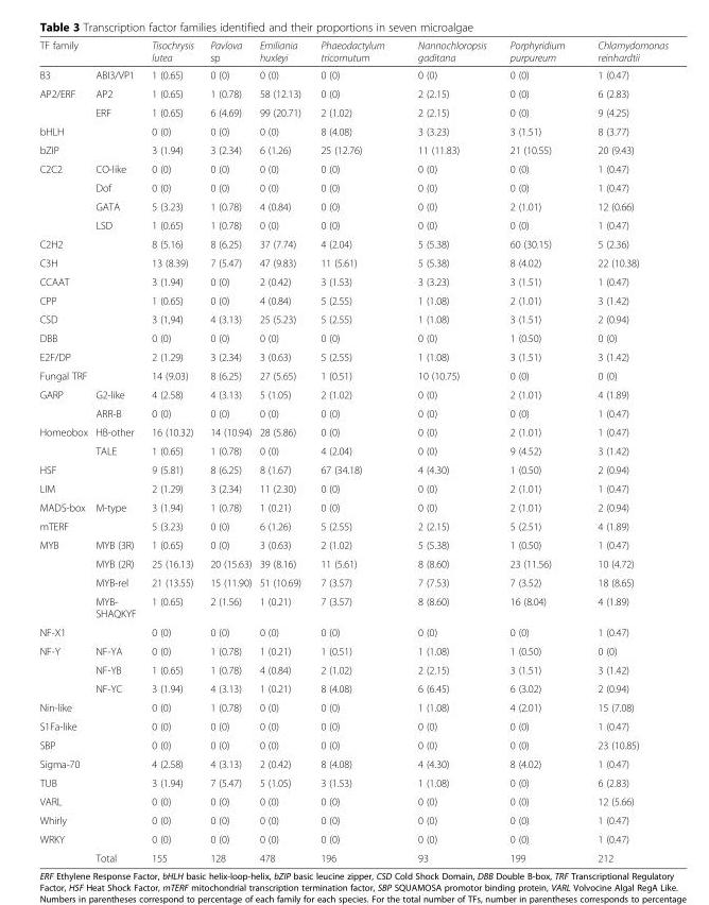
<table><thead><tr><td colspan="2">TF family</td><td rowspan="2">Tisochrysis lutea 1 (0.65)</td><td rowspan="2">Pavlova sp 0 (0)</td><td rowspan="2">Emiliania huxleyi 0 (0)</td><td rowspan="2">Phaeodactylum tricornutum 0 (0)</td><td rowspan="2">Nannochloropsis gaditana 0 (0)</td><td rowspan="2">Porphyridium purpureum 0 (0)</td><td rowspan="2">Chlamydomonas reinhardtii 1 (0.47)</td></tr><tr><td>B3</td><td>ABI3/VP1</td></tr></thead><tbody><tr><td rowspan="2">AP2/ERF</td><td>AP2</td><td>1 (0.65)</td><td>1 (0.78)</td><td>58 (12.13)</td><td>0 (0)</td><td>2 (2.15)</td><td>0 (0)</td><td>6 (2.83)</td></tr><tr><td>ERF</td><td>1 (0.65)</td><td>6 (4.69)</td><td>99 (20.71)</td><td>2 (1.02)</td><td>2 (2.15)</td><td>0 (0)</td><td>9 (4.25)</td></tr><tr><td colspan="2">bHLH</td><td>0 (0)</td><td>0 (0)</td><td>0 (0)</td><td>8 (4.08)</td><td>3 (3.23)</td><td>3 (1.51)</td><td>8 (3.77)</td></tr><tr><td colspan="2">bZIP</td><td>3 (1.94)</td><td>3 (2.34)</td><td>6 (1.26)</td><td>25 (12.76)</td><td>11 (11.83)</td><td>21 (10.55)</td><td>20 (9.43)</td></tr><tr><td rowspan="4">C2C2</td><td>CO-like</td><td>0 (0)</td><td>0 (0)</td><td>0 (0)</td><td>0 (0)</td><td>0 (0)</td><td>0 (0)</td><td>1 (0.47)</td></tr><tr><td>Dof</td><td>0 (0)</td><td>0 (0)</td><td>0 (0)</td><td>0 (0)</td><td>0 (0)</td><td>0 (0)</td><td>1 (0.47)</td></tr><tr><td>GATA</td><td>5 (3.23)</td><td>1 (0.78)</td><td>4 (0.84)</td><td>0 (0)</td><td>0 (0)</td><td>2 (1.01)</td><td>12 (0.66)</td></tr><tr><td>LSD</td><td>1 (0.65)</td><td>1 (0.78)</td><td>0 (0)</td><td>0 (0)</td><td>0 (0)</td><td>0 (0)</td><td>1 (0.47)</td></tr><tr><td colspan="2">C2H2</td><td>8 (5.16)</td><td>8 (6.25)</td><td>37 (7.74)</td><td>4 (2.04)</td><td>5 (5.38)</td><td>60 (30.15)</td><td>5 (2.36)</td></tr><tr><td colspan="2">C3H</td><td>13 (8.39)</td><td>7 (5.47)</td><td>47 (9.83)</td><td>11 (5.61)</td><td>5 (5.38)</td><td>8 (4.02)</td><td>22 (10.38)</td></tr><tr><td colspan="2">CCAAT</td><td>3 (1.94)</td><td>0 (0)</td><td>2 (0.42)</td><td>3 (1.53)</td><td>3 (3.23)</td><td>3 (1.51)</td><td>1 (0.47)</td></tr><tr><td colspan="2">CPP</td><td>1 (0.65)</td><td>0 (0)</td><td>4 (0.84)</td><td>5 (2.55)</td><td>1 (1.08)</td><td>2 (1.01)</td><td>3 (1.42)</td></tr><tr><td colspan="2">CSD</td><td>3 (1,94)</td><td>4 (3.13)</td><td>25 (5.23)</td><td>5 (2.55)</td><td>1 (1.08)</td><td>3 (1.51)</td><td>2 (0.94)</td></tr><tr><td colspan="2">DBB</td><td>0 (0)</td><td>0 (0)</td><td>0 (0)</td><td>0 (0)</td><td>0 (0)</td><td>1 (0.50)</td><td>0 (0)</td></tr><tr><td colspan="2">E2F/DP</td><td>2 (1.29)</td><td>3 (2.34)</td><td>3 (0.63)</td><td>5 (2.55)</td><td>1 (1.08)</td><td>3 (1.51)</td><td>3 (1.42)</td></tr><tr><td colspan="2">Fungal TRF</td><td>14 (9.03)</td><td>8 (6.25)</td><td>27 (5.65)</td><td>1 (0.51)</td><td>10 (10.75)</td><td>0 (0)</td><td>0 (0)</td></tr><tr><td rowspan="2">GARP</td><td>G2-like</td><td>4 (2.58)</td><td>4 (3.13)</td><td>5 (1.05)</td><td>2 (1.02)</td><td>0 (0)</td><td>2 (1.01)</td><td>4 (1.89)</td></tr><tr><td>ARR-B</td><td>0 (0)</td><td>0 (0)</td><td>0 (0)</td><td>0 (0)</td><td>0 (0)</td><td>0 (0)</td><td>1 (0.47)</td></tr><tr><td rowspan="2">Homeobox</td><td>HB-other</td><td>16 (10.32)</td><td>14 (10.94)</td><td>28 (5.86)</td><td>0 (0)</td><td>0 (0)</td><td>2 (1.01)</td><td>1 (0.47)</td></tr><tr><td>TALE</td><td>1 (0.65)</td><td>1 (0.78)</td><td>0 (0)</td><td>4 (2.04)</td><td>0 (0)</td><td>9 (4.52)</td><td>3 (1.42)</td></tr><tr><td colspan="2">HSF</td><td>9 (5.81)</td><td>8 (6.25)</td><td>8 (1.67)</td><td>67 (34.18)</td><td>4 (4.30)</td><td>1 (0.50)</td><td>2 (0.94)</td></tr><tr><td colspan="2">LIM</td><td>2 (1.29)</td><td>3 (2.34)</td><td>11 (2.30)</td><td>0 (0)</td><td>0 (0)</td><td>2 (1.01)</td><td>1 (0.47)</td></tr><tr><td>MADS-box</td><td>M-type</td><td>3 (1.94)</td><td>1 (0.78)</td><td>1 (0.21)</td><td>0 (0)</td><td>0 (0)</td><td>2 (1.01)</td><td>2 (0.94)</td></tr><tr><td colspan="2">mTERF</td><td>5 (3.23)</td><td>0 (0)</td><td>6 (1.26)</td><td>5 (2.55)</td><td>2 (2.15)</td><td>5 (2.51)</td><td>4 (1.89)</td></tr><tr><td rowspan="4">MYB</td><td>MYB (3R)</td><td>1 (0.65)</td><td>0 (0)</td><td>3 (0.63)</td><td>2 (1.02)</td><td>5 (5.38)</td><td>1 (0.50)</td><td>1 (0.47)</td></tr><tr><td>MYB (2R)</td><td>25 (16.13)</td><td>20 (15.63)</td><td>39 (8.16)</td><td>11 (5.61)</td><td>8 (8.60)</td><td>23 (11.56)</td><td>10 (4.72)</td></tr><tr><td>MYB-rel</td><td>21 (13.55)</td><td>15 (11.90)</td><td>51 (10.69)</td><td>7 (3.57)</td><td>7 (7.53)</td><td>7 (3.52)</td><td>18 (8.65)</td></tr><tr><td>MYB- SHAQKYF</td><td>1 (0.65)</td><td>2 (1.56)</td><td>1 (0.21)</td><td>7 (3.57)</td><td>8 (8.60)</td><td>16 (8.04)</td><td>4 (1.89)</td></tr><tr><td colspan="2">NF-X1</td><td>0 (0)</td><td>0 (0)</td><td>0 (0)</td><td>0 (0)</td><td>0 (0)</td><td>0 (0)</td><td>1 (0.47)</td></tr><tr><td rowspan="3">NF-Y</td><td>NF-YA</td><td>0 (0)</td><td>1 (0.78)</td><td>1 (0.21)</td><td>1 (0.51)</td><td>1 (1.08)</td><td>1 (0.50)</td><td>0 (0)</td></tr><tr><td>NF-YB</td><td>1 (0.65)</td><td>1 (0.78)</td><td>4 (0.84)</td><td>2 (1.02)</td><td>2 (2.15)</td><td>3 (1.51)</td><td>3 (1.42)</td></tr><tr><td>NF-YC</td><td>3 (1.94)</td><td>4 (3.13)</td><td>1 (0.21)</td><td>8 (4.08)</td><td>6 (6.45)</td><td>6 (3.02)</td><td>2 (0.94)</td></tr><tr><td colspan="2">Nin-like</td><td>0 (0)</td><td>1 (0.78)</td><td>0 (0)</td><td>0 (0)</td><td>1 (1.08)</td><td>4 (2.01)</td><td>15 (7.08)</td></tr><tr><td colspan="2">S1Fa-like</td><td>0 (0)</td><td>0 (0)</td><td>0 (0)</td><td>0 (0)</td><td>0 (0)</td><td>0 (0)</td><td>1 (0.47)</td></tr><tr><td colspan="2">SBP</td><td>0 (0)</td><td>0 (0)</td><td>0 (0)</td><td>0 (0)</td><td>0 (0)</td><td>0 (0)</td><td>23 (10.85)</td></tr><tr><td colspan="2">Sigma-70</td><td>4 (2.58)</td><td>4 (3.13)</td><td>2 (0.42)</td><td>8 (4.08)</td><td>4 (4.30)</td><td>8 (4.02)</td><td>1 (0.47)</td></tr><tr><td colspan="2">TUB</td><td>3 (1.94)</td><td>7 (5.47)</td><td>5 (1.05)</td><td>3 (1.53)</td><td>1 (1.08)</td><td>0 (0)</td><td>6 (2.83)</td></tr><tr><td colspan="2">VARL</td><td>0 (0)</td><td>0 (0)</td><td>0 (0)</td><td>0 (0)</td><td>0 (0)</td><td>0 (0)</td><td>12 (5.66)</td></tr><tr><td colspan="2">Whirly</td><td>0 (0)</td><td>0 (0)</td><td>0 (0)</td><td>0 (0)</td><td>0 (0)</td><td>0 (0)</td><td>1 (0.47)</td></tr><tr><td colspan="2">WRKY</td><td>0 (0)</td><td>0 (0)</td><td>0 (0)</td><td>0 (0)</td><td>0 (0)</td><td>0 (0)</td><td>1 (0.47)</td></tr><tr><td></td><td>Total</td><td>155</td><td>128</td><td>478</td><td>196</td><td>93</td><td>199</td><td>212</td></tr></tbody></table>